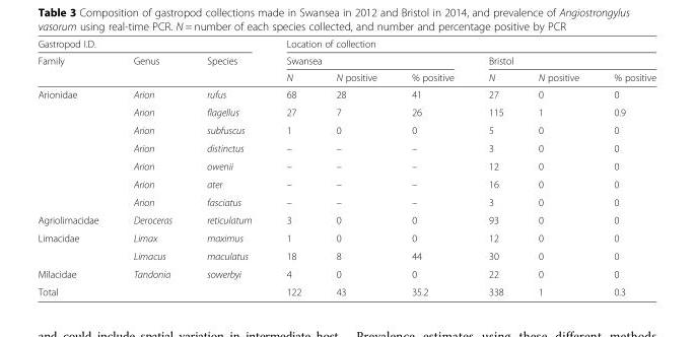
<table><thead><tr><td colspan="3">Gastropod I.D.</td><td colspan="6">Location of collection</td></tr><tr><td rowspan="2">Family</td><td rowspan="2">Genus</td><td rowspan="2">Species</td><td colspan="3">Swansea</td><td colspan="3">Bristol</td></tr><tr><td>N</td><td>N positive</td><td>% positive</td><td>N</td><td>N positive</td><td>% positive</td></tr></thead><tbody><tr><td rowspan="7">Arionidae</td><td>Arion</td><td>rufus</td><td>68</td><td>28</td><td>41</td><td>27</td><td>0</td><td>0</td></tr><tr><td>Arion</td><td>flagellus</td><td>27</td><td>7</td><td>26</td><td>115</td><td>1</td><td>0.9</td></tr><tr><td>Arion</td><td>subfuscus</td><td>1</td><td>0</td><td>0</td><td>5</td><td>0</td><td>0</td></tr><tr><td>Arion</td><td>distinctus</td><td>–</td><td>–</td><td>–</td><td>3</td><td>0</td><td>0</td></tr><tr><td>Arion</td><td>owenii</td><td>–</td><td>–</td><td>–</td><td>12</td><td>0</td><td>0</td></tr><tr><td>Arion</td><td>ater</td><td>–</td><td>–</td><td>–</td><td>16</td><td>0</td><td>0</td></tr><tr><td>Arion</td><td>fasciatus</td><td>–</td><td>–</td><td>–</td><td>3</td><td>0</td><td>0</td></tr><tr><td>Agriolimacidae</td><td>Deroceras</td><td>reticulatum</td><td>3</td><td>0</td><td>0</td><td>93</td><td>0</td><td>0</td></tr><tr><td rowspan="2">Limacidae</td><td>Limax</td><td>maximus</td><td>1</td><td>0</td><td>0</td><td>12</td><td>0</td><td>0</td></tr><tr><td>Limacus</td><td>maculatus</td><td>18</td><td>8</td><td>44</td><td>30</td><td>0</td><td>0</td></tr><tr><td>Milacidae</td><td>Tandonia</td><td>sowerbyi</td><td>4</td><td>0</td><td>0</td><td>22</td><td>0</td><td>0</td></tr><tr><td>Total</td><td></td><td></td><td>122</td><td>43</td><td>35.2</td><td>338</td><td>1</td><td>0.3</td></tr></tbody></table>